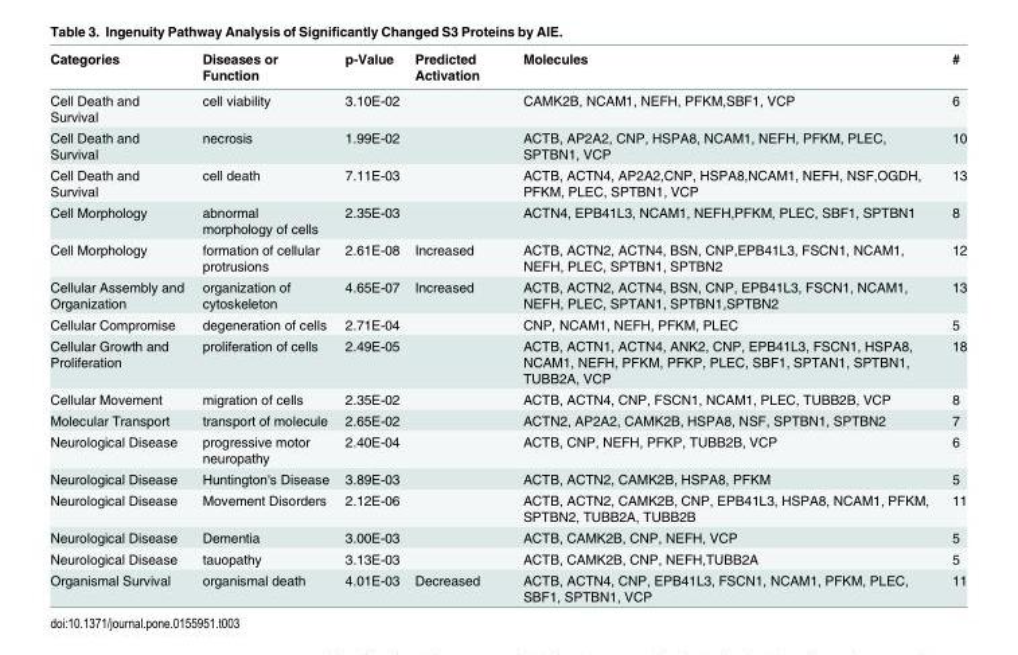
<table><thead><tr><td>Categories</td><td>Diseases or Function</td><td>p-Value</td><td>Predicted Activation</td><td>Molecules</td><td>#</td></tr></thead><tbody><tr><td>Cell Death and Survival</td><td>cell viability</td><td>3.10E-02</td><td></td><td>CAMK2B, NCAM1, NEFH, PFKM,SBF1, VCP</td><td>6</td></tr><tr><td>Cell Death and Survival</td><td>necrosis</td><td>1.99E-02</td><td></td><td>ACTB, AP2A2, CNP, HSPA8, NCAM1, NEFH, PFKM, PLEC, SPTBN1, VCP</td><td>10</td></tr><tr><td>Cell Death and Survival</td><td>cell death</td><td>7.11E-03</td><td></td><td>ACTB, ACTN4, AP2A2,CNP, HSPA8,NCAM1, NEFH, NSF,OGDH, PFKM, PLEC, SPTBN1, VCP</td><td>13</td></tr><tr><td>Cell Morphology</td><td>abnormal morphology of cells</td><td>2.35E-03</td><td></td><td>ACTN4, EPB41L3, NCAM1, NEFH,PFKM, PLEC, SBF1, SPTBN1</td><td>8</td></tr><tr><td>Cell Morphology</td><td>formation of cellular protrusions</td><td>2.61E-08</td><td>Increased</td><td>ACTB, ACTN2, ACTN4, BSN, CNP,EPB41L3, FSCN1, NCAM1, NEFH, PLEC, SPTBN1, SPTBN2</td><td>12</td></tr><tr><td>Cellular Assembly and Organization</td><td>organization of cytoskeleton</td><td>4.65E-07</td><td>Increased</td><td>ACTB, ACTN2, ACTN4, BSN, CNP, EPB41L3, FSCN1, NCAM1, NEFH, PLEC, SPTAN1, SPTBN1,SPTBN2</td><td>13</td></tr><tr><td>Cellular Compromise</td><td>degeneration of cells</td><td>2.71E-04</td><td></td><td>CNP, NCAM1, NEFH, PFKM, PLEC</td><td>5</td></tr><tr><td>Cellular Growth and Proliferation</td><td>proliferation of cells</td><td>2.49E-05</td><td></td><td>ACTB, ACTN1, ACTN4, ANK2, CNP, EPB41L3, FSCN1, HSPA8, NCAM1, NEFH, PFKM, PFKP, PLEC, SBF1, SPTAN1, SPTBN1, TUBB2A, VCP</td><td>18</td></tr><tr><td>Cellular Movement</td><td>migration of cells</td><td>2.35E-02</td><td></td><td>ACTB, ACTN4, CNP, FSCN1, NCAM1, PLEC, TUBB2B, VCP</td><td>8</td></tr><tr><td>Molecular Transport</td><td>transport of molecule</td><td>2.65E-02</td><td></td><td>ACTN2, AP2A2, CAMK2B, HSPA8, NSF, SPTBN1, SPTBN2</td><td>7</td></tr><tr><td>Neurological Disease</td><td>progressive motor neuropathy</td><td>2.40E-04</td><td></td><td>ACTB, CNP, NEFH, PFKP, TUBB2B, VCP</td><td>6</td></tr><tr><td>Neurological Disease</td><td>Huntington&#x27;s Disease</td><td>3.89E-03</td><td></td><td>ACTB, ACTN2, CAMK2B, HSPA8, PFKM</td><td>5</td></tr><tr><td>Neurological Disease</td><td>Movement Disorders</td><td>2.12E-06</td><td></td><td>ACTB, ACTN2, CAMK2B, CNP, EPB41L3, HSPA8, NCAM1, PFKM, SPTBN2, TUBB2A, TUBB2B</td><td>11</td></tr><tr><td>Neurological Disease</td><td>Dementia</td><td>3.00E-03</td><td></td><td>ACTB, CAMK2B, CNP, NEFH, VCP</td><td>5</td></tr><tr><td>Neurological Disease</td><td>tauopathy</td><td>3.13E-03</td><td></td><td>ACTB, CAMK2B, CNP, NEFH,TUBB2A</td><td>5</td></tr><tr><td>Organismal Survival</td><td>organismal death</td><td>4.01E-03</td><td>Decreased</td><td>ACTB, ACTN4, CNP, EPB41L3, FSCN1, NCAM1, PFKM, PLEC, SBF1, SPTBN1, VCP</td><td>11</td></tr></tbody></table>